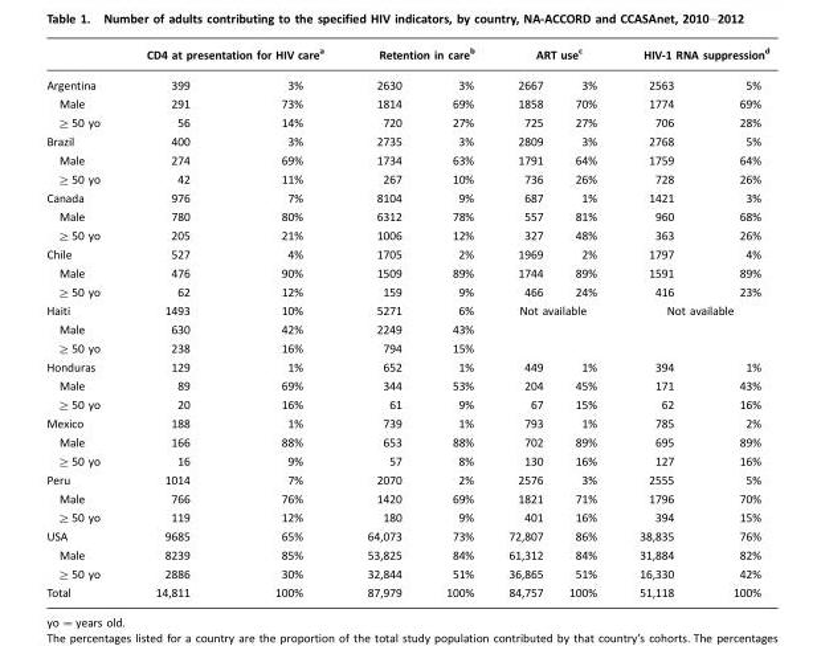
<table><thead><tr><td rowspan="2">Argentina</td><td colspan="2">CD4 at presentation for HIV care<sup>a</sup></td><td colspan="2">Retention in care<sup>b</sup></td><td colspan="2">ART use<sup>c</sup></td><td colspan="2">HIV-1 RNA suppression<sup>d</sup></td></tr><tr><td>399</td><td>3%</td><td>2630</td><td>3%</td><td>2667</td><td>3%</td><td>2563</td><td>5%</td></tr></thead><tbody><tr><td>Male</td><td>291</td><td>73%</td><td>1814</td><td>69%</td><td>1858</td><td>70%</td><td>1774</td><td>69%</td></tr><tr><td>≥50 yo</td><td>56</td><td>14%</td><td>720</td><td>27%</td><td>725</td><td>27%</td><td>706</td><td>28%</td></tr><tr><td>Brazil</td><td>400</td><td>3%</td><td>2735</td><td>3%</td><td>2809</td><td>3%</td><td>2768</td><td>5%</td></tr><tr><td>Male</td><td>274</td><td>69%</td><td>1734</td><td>63%</td><td>1791</td><td>64%</td><td>1759</td><td>64%</td></tr><tr><td>≥50 yo</td><td>42</td><td>11%</td><td>267</td><td>10%</td><td>736</td><td>26%</td><td>728</td><td>26%</td></tr><tr><td>Canada</td><td>976</td><td>7%</td><td>8104</td><td>9%</td><td>687</td><td>1%</td><td>1421</td><td>3%</td></tr><tr><td>Male</td><td>780</td><td>80%</td><td>6312</td><td>78%</td><td>557</td><td>81%</td><td>960</td><td>68%</td></tr><tr><td>≥50 yo</td><td>205</td><td>21%</td><td>1006</td><td>12%</td><td>327</td><td>48%</td><td>363</td><td>26%</td></tr><tr><td>Chile</td><td>527</td><td>4%</td><td>1705</td><td>2%</td><td>1969</td><td>2%</td><td>1797</td><td>4%</td></tr><tr><td>Male</td><td>476</td><td>90%</td><td>1509</td><td>89%</td><td>1744</td><td>89%</td><td>1591</td><td>89%</td></tr><tr><td>≥50 yo</td><td>62</td><td>12%</td><td>159</td><td>9%</td><td>466</td><td>24%</td><td>416</td><td>23%</td></tr><tr><td>Haiti</td><td>1493</td><td>10%</td><td>5271</td><td>6%</td><td colspan="2">Not available</td><td colspan="2">Not available</td></tr><tr><td>Male</td><td>630</td><td>42%</td><td>2249</td><td>43%</td><td></td><td></td><td></td><td></td></tr><tr><td>≥50 yo</td><td>238</td><td>16%</td><td>794</td><td>15%</td><td></td><td></td><td></td><td></td></tr><tr><td>Honduras</td><td>129</td><td>1%</td><td>652</td><td>1%</td><td>449</td><td>1%</td><td>394</td><td>1%</td></tr><tr><td>Male</td><td>89</td><td>69%</td><td>344</td><td>53%</td><td>204</td><td>45%</td><td>171</td><td>43%</td></tr><tr><td>≥50 yo</td><td>20</td><td>16%</td><td>61</td><td>9%</td><td>67</td><td>15%</td><td>62</td><td>16%</td></tr><tr><td>Mexico</td><td>188</td><td>1%</td><td>739</td><td>1%</td><td>793</td><td>1%</td><td>785</td><td>2%</td></tr><tr><td>Male</td><td>166</td><td>88%</td><td>653</td><td>88%</td><td>702</td><td>89%</td><td>695</td><td>89%</td></tr><tr><td>≥50 yo</td><td>16</td><td>9%</td><td>57</td><td>8%</td><td>130</td><td>16%</td><td>127</td><td>16%</td></tr><tr><td>Peru</td><td>1014</td><td>7%</td><td>2070</td><td>2%</td><td>2576</td><td>3%</td><td>2555</td><td>5%</td></tr><tr><td>Male</td><td>766</td><td>76%</td><td>1420</td><td>69%</td><td>1821</td><td>71%</td><td>1796</td><td>70%</td></tr><tr><td>≥50 yo</td><td>119</td><td>12%</td><td>180</td><td>9%</td><td>401</td><td>16%</td><td>394</td><td>15%</td></tr><tr><td>USA</td><td>9685</td><td>65%</td><td>64,073</td><td>73%</td><td>72,807</td><td>86%</td><td>38,835</td><td>76%</td></tr><tr><td>Male</td><td>8239</td><td>85%</td><td>53,825</td><td>84%</td><td>61,312</td><td>84%</td><td>31,884</td><td>82%</td></tr><tr><td>≥50 yo</td><td>2886</td><td>30%</td><td>32,844</td><td>51%</td><td>36,865</td><td>51%</td><td>16,330</td><td>42%</td></tr><tr><td>Total</td><td>14,811</td><td>100%</td><td>87,979</td><td>100%</td><td>84,757</td><td>100%</td><td>51,118</td><td>100%</td></tr></tbody></table>